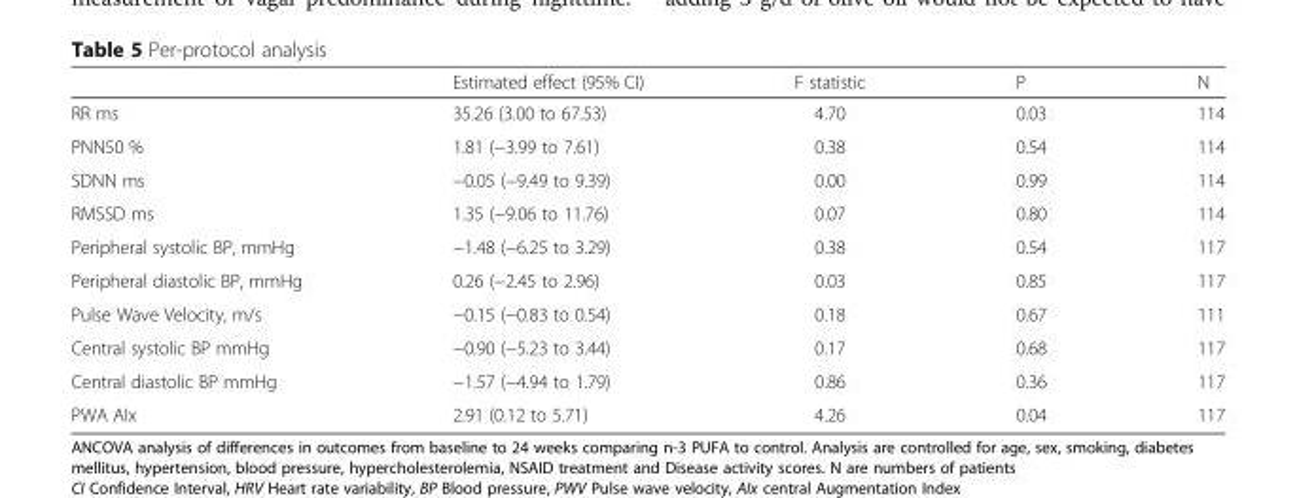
<table><thead><tr><td></td><td>Estimated effect (95% CI)</td><td>F statistic</td><td>P</td><td>N</td></tr></thead><tbody><tr><td>RR ms</td><td>35.26 (3.00 to 67.53)</td><td>4.70</td><td>0.03</td><td>114</td></tr><tr><td>PNN50 %</td><td>1.81 (−3.99 to 7.61)</td><td>0.38</td><td>0.54</td><td>114</td></tr><tr><td>SDNN ms</td><td>−0.05 (−9.49 to 9.39)</td><td>0.00</td><td>0.99</td><td>114</td></tr><tr><td>RMSSD ms</td><td>1.35 (−9.06 to 11.76)</td><td>0.07</td><td>0.80</td><td>114</td></tr><tr><td>Peripheral systolic BP, mmHg</td><td>−1.48 (−6.25 to 3.29)</td><td>0.38</td><td>0.54</td><td>117</td></tr><tr><td>Peripheral diastolic BP, mmHg</td><td>0.26 (−2.45 to 2.96)</td><td>0.03</td><td>0.85</td><td>117</td></tr><tr><td>Pulse Wave Velocity, m/s</td><td>−0.15 (−0.83 to 0.54)</td><td>0.18</td><td>0.67</td><td>111</td></tr><tr><td>Central systolic BP mmHg</td><td>−0.90 (−5.23 to 3.44)</td><td>0.17</td><td>0.68</td><td>117</td></tr><tr><td>Central diastolic BP mmHg</td><td>−1.57 (−4.94 to 1.79)</td><td>0.86</td><td>0.36</td><td>117</td></tr><tr><td>PWA AIx</td><td>2.91 (0.12 to 5.71)</td><td>4.26</td><td>0.04</td><td>117</td></tr></tbody></table>